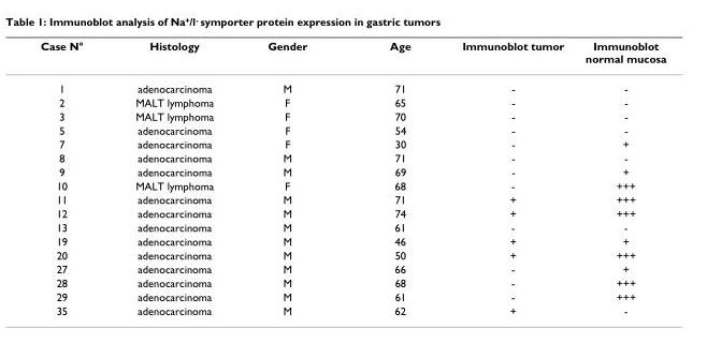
<table><thead><tr><td>Case N°</td><td>Histology</td><td>Gender</td><td>Age</td><td>Immunoblot tumor</td><td>Immunoblot normal mucosa</td></tr></thead><tbody><tr><td>1</td><td>adenocarcinoma</td><td>M</td><td>71</td><td>-</td><td>-</td></tr><tr><td>2</td><td>MALT lymphoma</td><td>F</td><td>65</td><td>-</td><td>-</td></tr><tr><td>3</td><td>MALT lymphoma</td><td>F</td><td>70</td><td>-</td><td>-</td></tr><tr><td>5</td><td>adenocarcinoma</td><td>F</td><td>54</td><td>-</td><td>-</td></tr><tr><td>7</td><td>adenocarcinoma</td><td>F</td><td>30</td><td>-</td><td>+</td></tr><tr><td>8</td><td>adenocarcinoma</td><td>M</td><td>71</td><td>-</td><td>-</td></tr><tr><td>9</td><td>adenocarcinoma</td><td>M</td><td>69</td><td>-</td><td>+</td></tr><tr><td>10</td><td>MALT lymphoma</td><td>F</td><td>68</td><td>-</td><td>+++</td></tr><tr><td>11</td><td>adenocarcinoma</td><td>M</td><td>71</td><td>+</td><td>+++</td></tr><tr><td>12</td><td>adenocarcinoma</td><td>M</td><td>74</td><td>+</td><td>+++</td></tr><tr><td>13</td><td>adenocarcinoma</td><td>M</td><td>61</td><td>-</td><td>-</td></tr><tr><td>19</td><td>adenocarcinoma</td><td>M</td><td>46</td><td>+</td><td>+</td></tr><tr><td>20</td><td>adenocarcinoma</td><td>M</td><td>50</td><td>+</td><td>+++</td></tr><tr><td>27</td><td>adenocarcinoma</td><td>M</td><td>66</td><td>-</td><td>+</td></tr><tr><td>28</td><td>adenocarcinoma</td><td>M</td><td>68</td><td>-</td><td>+++</td></tr><tr><td>29</td><td>adenocarcinoma</td><td>M</td><td>61</td><td>-</td><td>+++</td></tr><tr><td>35</td><td>adenocarcinoma</td><td>M</td><td>62</td><td>+</td><td>-</td></tr></tbody></table>